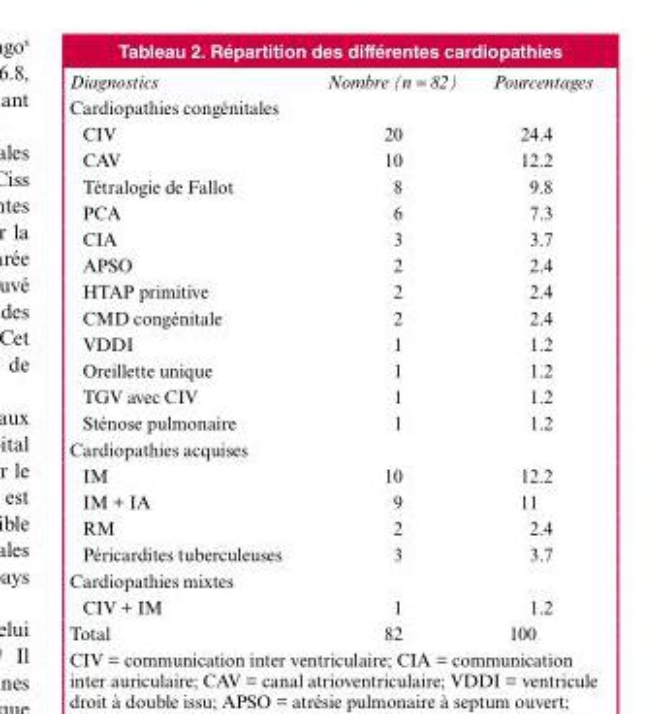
<table><thead><tr><td>Diagnostics</td><td>Nombre (n = 82)</td><td>Pourcentages</td></tr></thead><tbody><tr><td colspan="3">Cardiopathies congénitales</td></tr><tr><td>CIV</td><td>20</td><td>24.4</td></tr><tr><td>CAV</td><td>10</td><td>12.2</td></tr><tr><td>Tétralogie de Fallot</td><td>8</td><td>9.8</td></tr><tr><td>PCA</td><td>6</td><td>7.3</td></tr><tr><td>CIA</td><td>3</td><td>3.7</td></tr><tr><td>APSO</td><td>2</td><td>2.4</td></tr><tr><td>HTAP primitive</td><td>2</td><td>2.4</td></tr><tr><td>CMD congénitale</td><td>2</td><td>2.4</td></tr><tr><td>VDDI</td><td>1</td><td>1.2</td></tr><tr><td>Oreillette unique</td><td>1</td><td>1.2</td></tr><tr><td>TGV avec CIV</td><td>1</td><td>1.2</td></tr><tr><td>Sténose pulmonaire</td><td>1</td><td>1.2</td></tr><tr><td colspan="3">Cardiopathies acquises</td></tr><tr><td>IM</td><td>10</td><td>12.2</td></tr><tr><td>IM + IA</td><td>9</td><td>11</td></tr><tr><td>RM</td><td>2</td><td>2.4</td></tr><tr><td>Péricardites tuberculeuses</td><td>3</td><td>3.7</td></tr><tr><td colspan="3">Cardiopathies mixtes</td></tr><tr><td>CIV + IM</td><td>1</td><td>1.2</td></tr><tr><td>Total</td><td>82</td><td>100</td></tr></tbody></table>